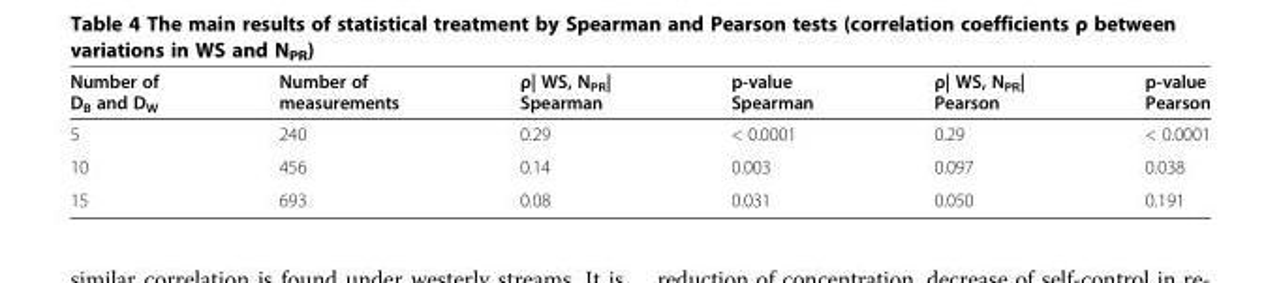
<table><thead><tr><td>Number of D<sub>B</sub> and D<sub>W</sub></td><td>Number of measurements</td><td>ρ| WS, N<sub>PR</sub>| Spearman</td><td>p-value Spearman</td><td>ρ| WS, N<sub>PR</sub>| Pearson</td><td>p-value Pearson</td></tr></thead><tbody><tr><td>5</td><td>240</td><td>0.29</td><td>&lt; 0.0001</td><td>0.29</td><td>&lt; 0.0001</td></tr><tr><td>10</td><td>456</td><td>0.14</td><td>0.003</td><td>0.097</td><td>0.038</td></tr><tr><td>15</td><td>693</td><td>0.08</td><td>0.031</td><td>0.050</td><td>0.191</td></tr></tbody></table>